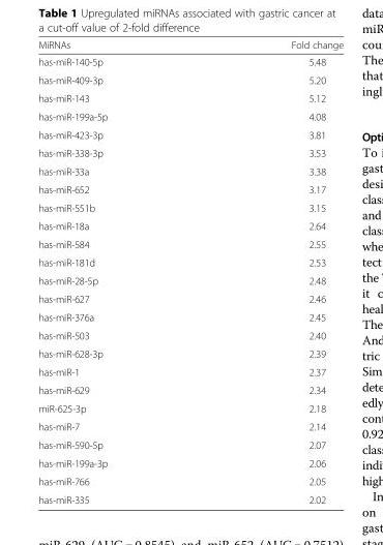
<table><thead><tr><td>MiRNAs</td><td>Fold change</td></tr></thead><tbody><tr><td>has-miR-140-5p</td><td>5.48</td></tr><tr><td>has-miR-409-3p</td><td>5.20</td></tr><tr><td>has-miR-143</td><td>5.12</td></tr><tr><td>has-miR-199a-5p</td><td>4.08</td></tr><tr><td>has-miR-423-3p</td><td>3.81</td></tr><tr><td>has-miR-338-3p</td><td>3.53</td></tr><tr><td>has-miR-33a</td><td>3.38</td></tr><tr><td>has-miR-652</td><td>3.17</td></tr><tr><td>has-miR-551b</td><td>3.15</td></tr><tr><td>has-miR-18a</td><td>2.64</td></tr><tr><td>has-miR-584</td><td>2.55</td></tr><tr><td>has-miR-181d</td><td>2.53</td></tr><tr><td>has-miR-28-5p</td><td>2.48</td></tr><tr><td>has-miR-627</td><td>2.46</td></tr><tr><td>has-miR-376a</td><td>2.45</td></tr><tr><td>has-miR-503</td><td>2.40</td></tr><tr><td>has-miR-628-3p</td><td>2.39</td></tr><tr><td>has-miR-1</td><td>2.37</td></tr><tr><td>has-miR-629</td><td>2.34</td></tr><tr><td>miR-625-3p</td><td>2.18</td></tr><tr><td>has-miR-7</td><td>2.14</td></tr><tr><td>has-miR-590-5p</td><td>2.07</td></tr><tr><td>has-miR-199a-3p</td><td>2.06</td></tr><tr><td>has-miR-766</td><td>2.05</td></tr><tr><td>has-miR-335</td><td>2.02</td></tr></tbody></table>